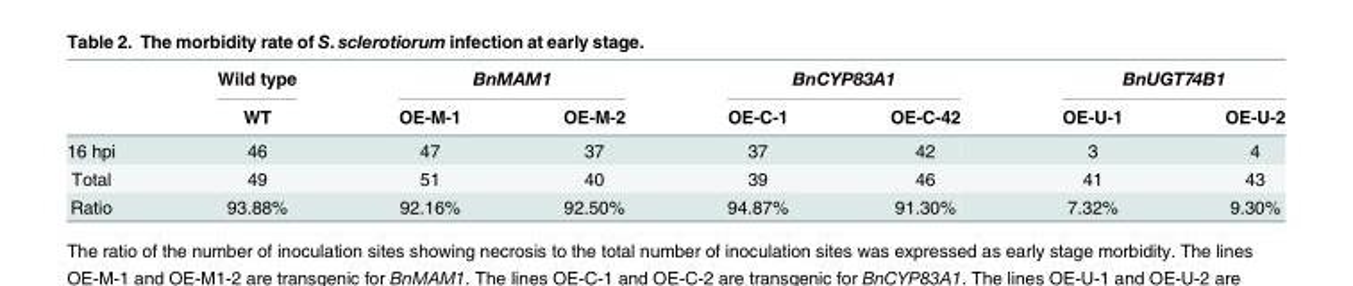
<table><thead><tr><td rowspan="2"></td><td rowspan="2">Wild type WT</td><td colspan="2">BnMAM1</td><td colspan="2">BnCYP83A1</td><td colspan="2">BnUGT74B1</td></tr><tr><td>OE-M-1</td><td>OE-M-2</td><td>OE-C-1</td><td>OE-C-42</td><td>OE-U-1</td><td>OE-U-2</td></tr></thead><tbody><tr><td>16 hpi</td><td>46</td><td>47</td><td>37</td><td>37</td><td>42</td><td>3</td><td>4</td></tr><tr><td>Total</td><td>49</td><td>51</td><td>40</td><td>39</td><td>46</td><td>41</td><td>43</td></tr><tr><td>Ratio</td><td>93.88%</td><td>92.16%</td><td>92.50%</td><td>94.87%</td><td>91.30%</td><td>7.32%</td><td>9.30%</td></tr></tbody></table>